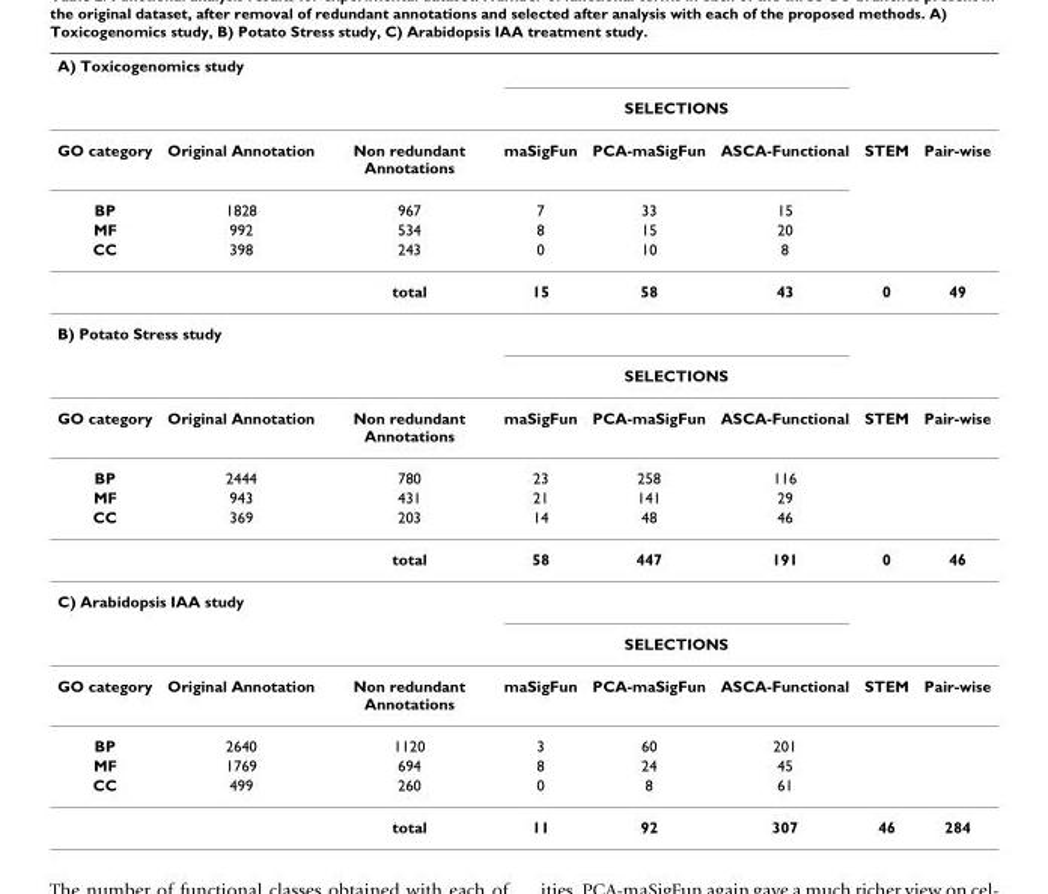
<table><thead><tr><td colspan="8">A) Toxicogenomics study</td></tr><tr><td rowspan="2">GO category</td><td rowspan="2">Original Annotation</td><td rowspan="2">Non redundant Annotations</td><td colspan="3">SELECTIONS</td><td rowspan="2">STEM</td><td rowspan="2">Pair-wise</td></tr><tr><td>maSigFun</td><td>PCA-maSigFun</td><td>ASCA-Functional</td></tr></thead><tbody><tr><td>BP</td><td>1828</td><td>967</td><td>7</td><td>33</td><td>15</td><td></td><td></td></tr><tr><td>MF</td><td>992</td><td>534</td><td>8</td><td>15</td><td>20</td><td></td><td></td></tr><tr><td rowspan="2">CC</td><td>398</td><td>243</td><td>0</td><td>10</td><td>8</td><td></td><td></td></tr><tr><td></td><td>total</td><td>15</td><td>58</td><td>43</td><td>0</td><td>49</td></tr><tr><td colspan="8">B) Potato Stress study</td></tr><tr><td></td><td></td><td></td><td colspan="3">SELECTIONS</td><td></td><td></td></tr><tr><td>GO category</td><td>Original Annotation</td><td>Non redundant Annotations</td><td>maSigFun</td><td>PCA-maSigFun</td><td>ASCA-Functional</td><td>STEM</td><td>Pair-wise</td></tr><tr><td>BP</td><td>2444</td><td>780</td><td>23</td><td>258</td><td>116</td><td></td><td></td></tr><tr><td>MF</td><td>943</td><td>431</td><td>21</td><td>141</td><td>29</td><td></td><td></td></tr><tr><td rowspan="2">CC</td><td>369</td><td>203</td><td>14</td><td>48</td><td>46</td><td></td><td></td></tr><tr><td></td><td>total</td><td>58</td><td>447</td><td>191</td><td>0</td><td>46</td></tr><tr><td colspan="8">C) Arabidopsis IAA study</td></tr><tr><td></td><td></td><td></td><td colspan="3">SELECTIONS</td><td></td><td></td></tr><tr><td>GO category</td><td>Original Annotation</td><td>Non redundant Annotations</td><td>maSigFun</td><td>PCA-maSigFun</td><td>ASCA-Functional</td><td>STEM</td><td>Pair-wise</td></tr><tr><td>BP</td><td>2640</td><td>1120</td><td>3</td><td>60</td><td>201</td><td></td><td></td></tr><tr><td>MF</td><td>1769</td><td>694</td><td>8</td><td>24</td><td>45</td><td></td><td></td></tr><tr><td rowspan="2">CC</td><td>499</td><td>260</td><td>0</td><td>8</td><td>61</td><td></td><td></td></tr><tr><td></td><td>total</td><td>11</td><td>92</td><td>307</td><td>46</td><td>284</td></tr></tbody></table>